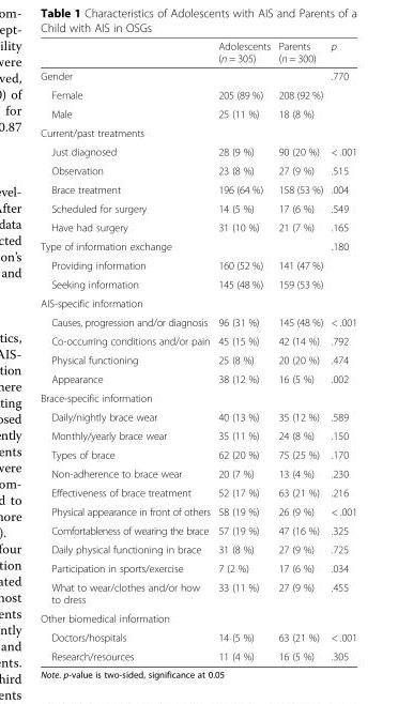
<table><thead><tr><td></td><td>Adolescents (n = 305)</td><td>Parents (n = 300)</td><td>p</td></tr></thead><tbody><tr><td>Gender</td><td></td><td></td><td>.770</td></tr><tr><td>Female</td><td>205 (89 %)</td><td>208 (92 %)</td><td></td></tr><tr><td>Male</td><td>25 (11 %)</td><td>18 (8 %)</td><td></td></tr><tr><td colspan="4">Current/past treatments</td></tr><tr><td>Just diagnosed</td><td>28 (9 %)</td><td>90 (20 %)</td><td>&lt; .001</td></tr><tr><td>Observation</td><td>23 (8 %)</td><td>27 (9 %)</td><td>.515</td></tr><tr><td>Brace treatment</td><td>196 (64 %)</td><td>158 (53 %)</td><td>.004</td></tr><tr><td>Scheduled for surgery</td><td>14 (5 %)</td><td>17 (6 %)</td><td>.549</td></tr><tr><td>Have had surgery</td><td>31 (10 %)</td><td>21 (7 %)</td><td>.165</td></tr><tr><td>Type of information exchange</td><td></td><td></td><td>.180</td></tr><tr><td>Providing information</td><td>160 (52 %)</td><td>141 (47 %)</td><td></td></tr><tr><td>Seeking information</td><td>145 (48 %)</td><td>159 (53 %)</td><td></td></tr><tr><td colspan="4">AIS-specific information</td></tr><tr><td>Causes, progression and/or diagnosis</td><td>96 (31 %)</td><td>145 (48 %)</td><td>&lt; .001</td></tr><tr><td>Co-occurring conditions and/or pain</td><td>45 (15 %)</td><td>42 (14 %)</td><td>.792</td></tr><tr><td>Physical functioning</td><td>25 (8 %)</td><td>20 (20 %)</td><td>.474</td></tr><tr><td>Appearance</td><td>38 (12 %)</td><td>16 (5 %)</td><td>.002</td></tr><tr><td colspan="4">Brace-specific information</td></tr><tr><td>Daily/nightly brace wear</td><td>40 (13 %)</td><td>35 (12 %)</td><td>.589</td></tr><tr><td>Monthly/yearly brace wear</td><td>35 (11 %)</td><td>24 (8 %)</td><td>.150</td></tr><tr><td>Types of brace</td><td>62 (20 %)</td><td>75 (25 %)</td><td>.170</td></tr><tr><td>Non-adherence to brace wear</td><td>20 (7 %)</td><td>13 (4 %)</td><td>.230</td></tr><tr><td>Effectiveness of brace treatment</td><td>52 (17 %)</td><td>63 (21 %)</td><td>.216</td></tr><tr><td>Physical appearance in front of others</td><td>58 (19 %)</td><td>26 (9 %)</td><td>&lt; .001</td></tr><tr><td>Comfortableness of wearing the brace</td><td>57 (19 %)</td><td>47 (16 %)</td><td>.325</td></tr><tr><td>Daily physical functioning in brace</td><td>31 (8 %)</td><td>27 (9 %)</td><td>.725</td></tr><tr><td>Participation in sports/exercise</td><td>7 (2 %)</td><td>17 (6 %)</td><td>.034</td></tr><tr><td>What to wear/clothes and/or how to dress</td><td>33 (11 %)</td><td>27 (9 %)</td><td>.455</td></tr><tr><td colspan="4">Other biomedical information</td></tr><tr><td>Doctors/hospitals</td><td>14 (5 %)</td><td>63 (21 %)</td><td>&lt; .001</td></tr><tr><td>Research/resources</td><td>11 (4 %)</td><td>16 (5 %)</td><td>.305</td></tr></tbody></table>